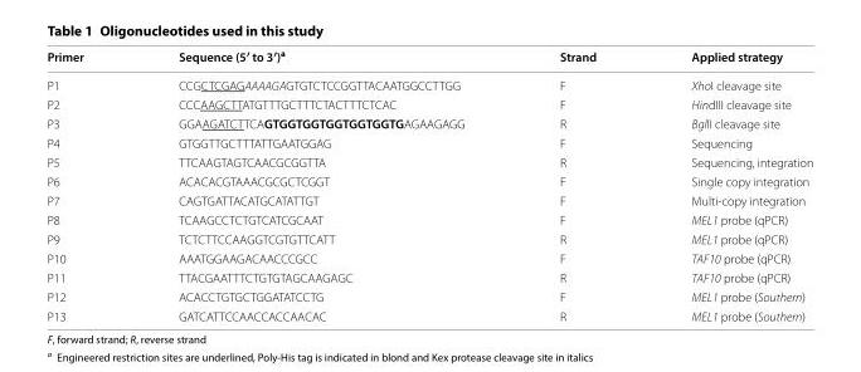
<table><thead><tr><td>Primer</td><td>Sequence (5′ to 3′)<sup>a</sup></td><td>Strand</td><td>Applied strategy</td></tr></thead><tbody><tr><td>P1</td><td>CCG CTC GAG AAA AGA GTG TCT CCG GTT ACA ATG GCC TTG G</td><td>F</td><td>XhoI cleavage site</td></tr><tr><td>P2</td><td>CCC AAG CTT ATG TTT GCT TTC TAC TTT CTCAC</td><td>F</td><td>HindIII cleavage site</td></tr><tr><td>P3</td><td>GGA AGA TCT TCA GTG GTG GTG GTG GTG GTG AGA AGA GG</td><td>R</td><td>BglII cleavage site</td></tr><tr><td>P4</td><td>GTG GTT GCT TTA TTG AAT GGAG</td><td>F</td><td>Sequencing</td></tr><tr><td>P5</td><td>TTC AAG TAG TCA ACG CGG TTA</td><td>R</td><td>Sequencing, integration</td></tr><tr><td>P6</td><td>ACA CAC GTA AAC GCG CTC GGT</td><td>F</td><td>Single copy integration</td></tr><tr><td>P7</td><td>CAG TGA TTA CAT GCA TAT TGT</td><td>F</td><td>Multi‑copy integration</td></tr><tr><td>P8</td><td>TCA AGC CTC TGT CAT CGC AAT</td><td>F</td><td>MEL1 probe (qPCR)</td></tr><tr><td>P9</td><td>TCT CTT CCA AGG TCG TGT TCATT</td><td>R</td><td>MEL1 probe (qPCR)</td></tr><tr><td>P10</td><td>AAA TGG AAG ACA ACC CGC C</td><td>F</td><td>TAF10 probe (qPCR)</td></tr><tr><td>P11</td><td>TTA CGA ATT TCT GTG TAG CAA GAG C</td><td>R</td><td>TAF10 probe (qPCR)</td></tr><tr><td>P12</td><td>ACA CCT GTG CTG GAT ATC CTG</td><td>F</td><td>MEL1 probe (Southern)</td></tr><tr><td>P13</td><td>GAT CAT TCC AAC CAC CAA CAC</td><td>R</td><td>MEL1 probe (Southern)</td></tr></tbody></table>